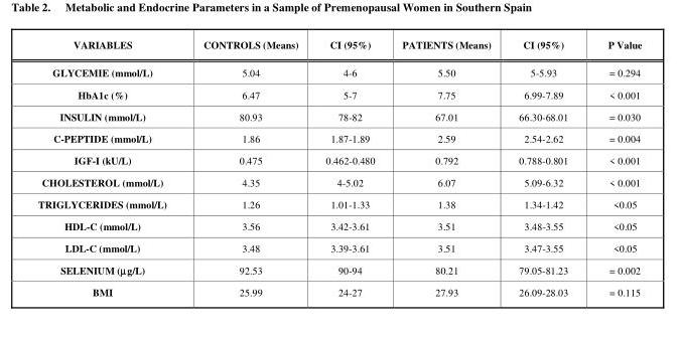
<table><thead><tr><td>VARIABLES</td><td>CONTROLS (Means)</td><td>CI (95%)</td><td>PATIENTS (Means)</td><td>CI (95%)</td><td>P Value</td></tr></thead><tbody><tr><td>GLYCEMIE (mmol/L)</td><td>5.04</td><td>4-6</td><td>5.50</td><td>5-5.93</td><td>= 0.294</td></tr><tr><td>HbA1c (%)</td><td>6.47</td><td>5-7</td><td>7.75</td><td>6.99-7.89</td><td>&lt; 0.001</td></tr><tr><td>INSULIN (mmol/L)</td><td>80.93</td><td>78-82</td><td>67.01</td><td>66.30-68.01</td><td>= 0.030</td></tr><tr><td>C-PEPTIDE (mmol/L)</td><td>1.86</td><td>1.87-1.89</td><td>2.59</td><td>2.54-2.62</td><td>= 0.004</td></tr><tr><td>IGF-I (kU/L)</td><td>0.475</td><td>0.462-0.480</td><td>0.792</td><td>0.788-0.801</td><td>&lt; 0.001</td></tr><tr><td>CHOLESTEROL (mmol/L)</td><td>4.35</td><td>4-5.02</td><td>6.07</td><td>5.09-6.32</td><td>&lt; 0.001</td></tr><tr><td>TRIGLYCERIDES (mmol/L)</td><td>1.26</td><td>1.01-1.33</td><td>1.38</td><td>1.34-1.42</td><td>&lt;0.05</td></tr><tr><td>HDL-C (mmol/L)</td><td>3.56</td><td>3.42-3.61</td><td>3.51</td><td>3.48-3.55</td><td>&lt;0.05</td></tr><tr><td>LDL-C (mmol/L)</td><td>3.48</td><td>3.39-3.61</td><td>3.51</td><td>3.47-3.55</td><td>&lt;0.05</td></tr><tr><td>SELENIUM (μg/L)</td><td>92.53</td><td>90-94</td><td>80.21</td><td>79.05-81.23</td><td>= 0.002</td></tr><tr><td>BMI</td><td>25.99</td><td>24-27</td><td>27.93</td><td>26.09-28.03</td><td>= 0.115</td></tr></tbody></table>